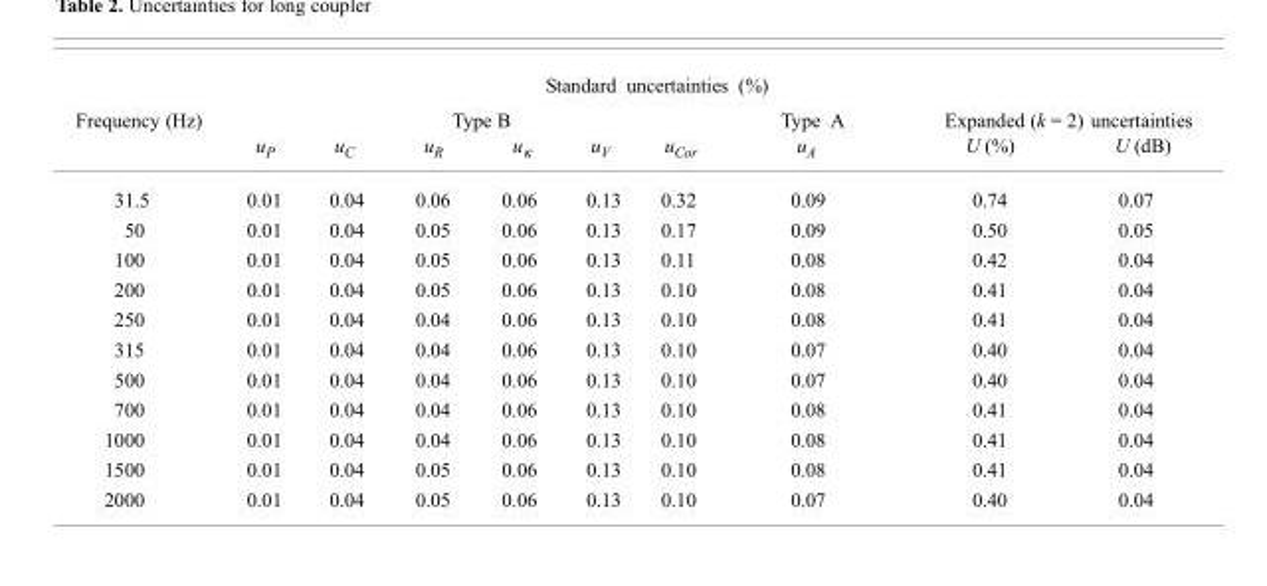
<table><thead><tr><td colspan="10">Standard uncertainties (%)</td></tr><tr><td rowspan="2">Frequency (Hz)</td><td colspan="6">Type B</td><td rowspan="2">Type A u<sub>A</sub></td><td colspan="2">Expanded (k = 2) uncertainties</td></tr><tr><td>u<sub>P</sub></td><td>u<sub>C</sub></td><td>u<sub>R</sub></td><td>u<sub>κ</sub></td><td>u<sub>V</sub></td><td>u<sub>Cor</sub></td><td>U (%)</td><td>U (dB)</td></tr></thead><tbody><tr><td>31.5</td><td>0.01</td><td>0.04</td><td>0.06</td><td>0.06</td><td>0.13</td><td>0.32</td><td>0.09</td><td>0.74</td><td>0.07</td></tr><tr><td>50</td><td>0.01</td><td>0.04</td><td>0.05</td><td>0.06</td><td>0.13</td><td>0.17</td><td>0.09</td><td>0.50</td><td>0.05</td></tr><tr><td>100</td><td>0.01</td><td>0.04</td><td>0.05</td><td>0.06</td><td>0.13</td><td>0.11</td><td>0.08</td><td>0.42</td><td>0.04</td></tr><tr><td>200</td><td>0.01</td><td>0.04</td><td>0.05</td><td>0.06</td><td>0.13</td><td>0.10</td><td>0.08</td><td>0.41</td><td>0.04</td></tr><tr><td>250</td><td>0.01</td><td>0.04</td><td>0.04</td><td>0.06</td><td>0.13</td><td>0.10</td><td>0.08</td><td>0.41</td><td>0.04</td></tr><tr><td>315</td><td>0.01</td><td>0.04</td><td>0.04</td><td>0.06</td><td>0.13</td><td>0.10</td><td>0.07</td><td>0.40</td><td>0.04</td></tr><tr><td>500</td><td>0.01</td><td>0.04</td><td>0.04</td><td>0.06</td><td>0.13</td><td>0.10</td><td>0.07</td><td>0.40</td><td>0.04</td></tr><tr><td>700</td><td>0.01</td><td>0.04</td><td>0.04</td><td>0.06</td><td>0.13</td><td>0.10</td><td>0.08</td><td>0.41</td><td>0.04</td></tr><tr><td>1000</td><td>0.01</td><td>0.04</td><td>0.04</td><td>0.06</td><td>0.13</td><td>0.10</td><td>0.08</td><td>0.41</td><td>0.04</td></tr><tr><td>1500</td><td>0.01</td><td>0.04</td><td>0.05</td><td>0.06</td><td>0.13</td><td>0.10</td><td>0.08</td><td>0.41</td><td>0.04</td></tr><tr><td>2000</td><td>0.01</td><td>0.04</td><td>0.05</td><td>0.06</td><td>0.13</td><td>0.10</td><td>0.07</td><td>0.40</td><td>0.04</td></tr></tbody></table>